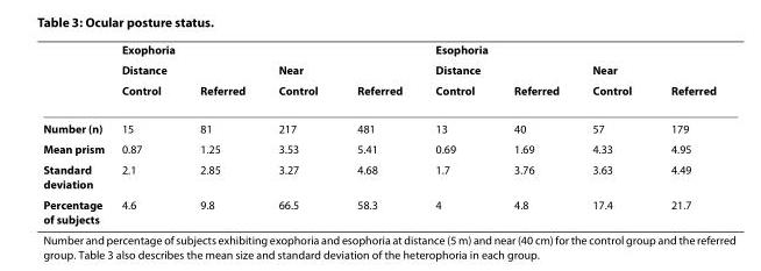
<table><thead><tr><td rowspan="3"></td><td colspan="4">Exophoria</td><td colspan="4">Esophoria</td></tr><tr><td colspan="2">Distance</td><td colspan="2">Near</td><td colspan="2">Distance</td><td colspan="2">Near</td></tr><tr><td>Control</td><td>Referred</td><td>Control</td><td>Referred</td><td>Control</td><td>Referred</td><td>Control</td><td>Referred</td></tr></thead><tbody><tr><td>Number (n)</td><td>15</td><td>81</td><td>217</td><td>481</td><td>13</td><td>40</td><td>57</td><td>179</td></tr><tr><td>Mean prism</td><td>0.87</td><td>1.25</td><td>3.53</td><td>5.41</td><td>0.69</td><td>1.69</td><td>4.33</td><td>4.95</td></tr><tr><td>Standard deviation</td><td>2.1</td><td>2.85</td><td>3.27</td><td>4.68</td><td>1.7</td><td>3.76</td><td>3.63</td><td>4.49</td></tr><tr><td>Percentage of subjects</td><td>4.6</td><td>9.8</td><td>66.5</td><td>58.3</td><td>4</td><td>4.8</td><td>17.4</td><td>21.7</td></tr></tbody></table>